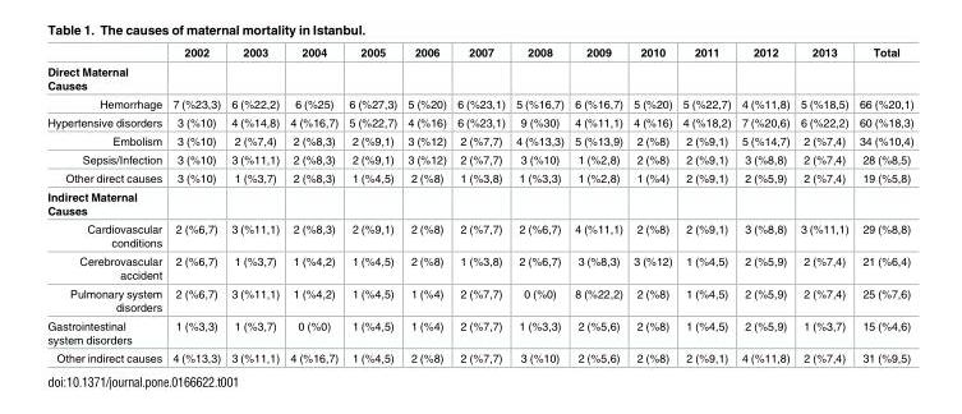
<table><thead><tr><td></td><td>2002</td><td>2003</td><td>2004</td><td>2005</td><td>2006</td><td>2007</td><td>2008</td><td>2009</td><td>2010</td><td>2011</td><td>2012</td><td>2013</td><td>Total</td></tr></thead><tbody><tr><td colspan="14">Direct Maternal Causes</td></tr><tr><td>Hemorrhage</td><td>7 (%23,3)</td><td>6 (%22,2)</td><td>6 (%25)</td><td>6 (%27,3)</td><td>5 (%20)</td><td>6 (%23,1)</td><td>5 (%16,7)</td><td>6 (%16,7)</td><td>5 (%20)</td><td>5 (%22,7)</td><td>4 (%11,8)</td><td>5 (%18,5)</td><td>66 (%20,1)</td></tr><tr><td>Hypertensive disorders</td><td>3 (%10)</td><td>4 (%14,8)</td><td>4 (%16,7)</td><td>5 (%22,7)</td><td>4 (%16)</td><td>6 (%23,1)</td><td>9 (%30)</td><td>4 (%11,1)</td><td>4 (%16)</td><td>4 (%18,2)</td><td>7 (%20,6)</td><td>6 (%22,2)</td><td>60 (%18,3)</td></tr><tr><td>Embolism</td><td>3 (%10)</td><td>2 (%7,4)</td><td>2 (%8,3)</td><td>2 (%9,1)</td><td>3 (%12)</td><td>2 (%7,7)</td><td>4 (%13,3)</td><td>5 (%13,9)</td><td>2 (%8)</td><td>2 (%9,1)</td><td>5 (%14,7)</td><td>2 (%7,4)</td><td>34 (%10,4)</td></tr><tr><td>Sepsis/Infection</td><td>3 (%10)</td><td>3 (%11,1)</td><td>2 (%8,3)</td><td>2 (%9,1)</td><td>3 (%12)</td><td>2 (%7,7)</td><td>3 (%10)</td><td>1 (%2,8)</td><td>2 (%8)</td><td>2 (%9,1)</td><td>3 (%8,8)</td><td>2 (%7,4)</td><td>28 (%8,5)</td></tr><tr><td>Other direct causes</td><td>3 (%10)</td><td>1 (%3,7)</td><td>2 (%8,3)</td><td>1 (%4,5)</td><td>2 (%8)</td><td>1 (%3,8)</td><td>1 (%3,3)</td><td>1 (%2,8)</td><td>1 (%4)</td><td>2 (%9,1)</td><td>2 (%5,9)</td><td>2 (%7,4)</td><td>19 (%5,8)</td></tr><tr><td colspan="14">Indirect Maternal Causes</td></tr><tr><td>Cardiovascular conditions</td><td>2 (%6,7)</td><td>3 (%11,1)</td><td>2 (%8,3)</td><td>2 (%9,1)</td><td>2 (%8)</td><td>2 (%7,7)</td><td>2 (%6,7)</td><td>4 (%11,1)</td><td>2 (%8)</td><td>2 (%9,1)</td><td>3 (%8,8)</td><td>3 (%11,1)</td><td>29 (%8,8)</td></tr><tr><td>Cerebrovascular accident</td><td>2 (%6,7)</td><td>1 (%3,7)</td><td>1 (%4,2)</td><td>1 (%4,5)</td><td>2 (%8)</td><td>1 (%3,8)</td><td>2 (%6,7)</td><td>3 (%8,3)</td><td>3 (%12)</td><td>1 (%4,5)</td><td>2 (%5,9)</td><td>2 (%7,4)</td><td>21 (%6,4)</td></tr><tr><td>Pulmonary system disorders</td><td>2 (%6,7)</td><td>3 (%11,1)</td><td>1 (%4,2)</td><td>1 (%4,5)</td><td>1 (%4)</td><td>2 (%7,7)</td><td>0 (%0)</td><td>8 (%22,2)</td><td>2 (%8)</td><td>1 (%4,5)</td><td>2 (%5,9)</td><td>2 (%7,4)</td><td>25 (%7,6)</td></tr><tr><td>Gastrointestinal system disorders</td><td>1 (%3,3)</td><td>1 (%3,7)</td><td>0 (%0)</td><td>1 (%4,5)</td><td>1 (%4)</td><td>2 (%7,7)</td><td>1 (%3,3)</td><td>2 (%5,6)</td><td>2 (%8)</td><td>1 (%4,5)</td><td>2 (%5,9)</td><td>1 (%3,7)</td><td>15 (%4,6)</td></tr><tr><td>Other indirect causes</td><td>4 (%13,3)</td><td>3 (%11,1)</td><td>4 (%16,7)</td><td>1 (%4,5)</td><td>2 (%8)</td><td>2 (%7,7)</td><td>3 (%10)</td><td>2 (%5,6)</td><td>2 (%8)</td><td>2 (%9,1)</td><td>4 (%11,8)</td><td>2 (%7,4)</td><td>31 (%9,5)</td></tr></tbody></table>